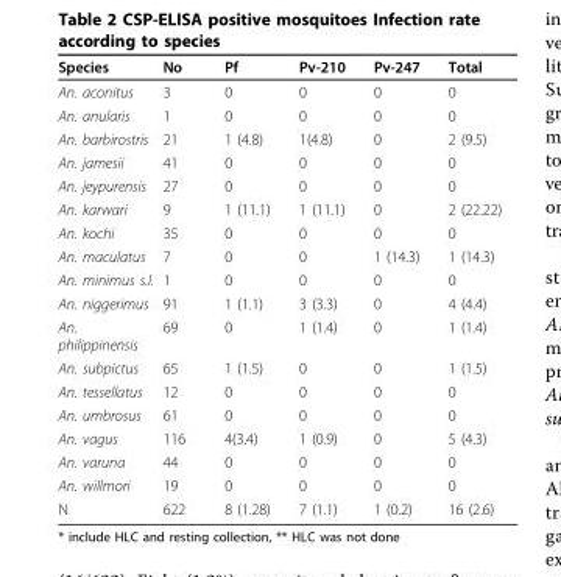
<table><thead><tr><td>Species</td><td>No</td><td>Pf</td><td>Pv-210</td><td>Pv-247</td><td>Total</td></tr></thead><tbody><tr><td>An. aconitus</td><td>3</td><td>0</td><td>0</td><td>0</td><td>0</td></tr><tr><td>An. anularis</td><td>1</td><td>0</td><td>0</td><td>0</td><td>0</td></tr><tr><td>An. barbirostris</td><td>21</td><td>1 (4.8)</td><td>1(4.8)</td><td>0</td><td>2 (9.5)</td></tr><tr><td>An. jamesii</td><td>41</td><td>0</td><td>0</td><td>0</td><td>0</td></tr><tr><td>An. jeypurensis</td><td>27</td><td>0</td><td>0</td><td>0</td><td>0</td></tr><tr><td>An. karwari</td><td>9</td><td>1 (11.1)</td><td>1 (11.1)</td><td>0</td><td>2 (22.22)</td></tr><tr><td>An. kochi</td><td>35</td><td>0</td><td>0</td><td>0</td><td>0</td></tr><tr><td>An. maculatus</td><td>7</td><td>0</td><td>0</td><td>1 (14.3)</td><td>1 (14.3)</td></tr><tr><td>An. minimus s.l.</td><td>1</td><td>0</td><td>0</td><td>0</td><td>0</td></tr><tr><td>An. niggerimus</td><td>91</td><td>1 (1.1)</td><td>3 (3.3)</td><td>0</td><td>4 (4.4)</td></tr><tr><td>An. philippinensis</td><td>69</td><td>0</td><td>1 (1.4)</td><td>0</td><td>1 (1.4)</td></tr><tr><td>An. subpictus</td><td>65</td><td>1 (1.5)</td><td>0</td><td>0</td><td>1 (1.5)</td></tr><tr><td>An. tessellatus</td><td>12</td><td>0</td><td>0</td><td>0</td><td>0</td></tr><tr><td>An. umbrosus</td><td>61</td><td>0</td><td>0</td><td>0</td><td>0</td></tr><tr><td>An. vagus</td><td>116</td><td>4(3.4)</td><td>1 (0.9)</td><td>0</td><td>5 (4.3)</td></tr><tr><td>An. varuna</td><td>44</td><td>0</td><td>0</td><td>0</td><td>0</td></tr><tr><td>An. willmori</td><td>19</td><td>0</td><td>0</td><td>0</td><td>0</td></tr><tr><td>N</td><td>622</td><td>8 (1.28)</td><td>7 (1.1)</td><td>1 (0.2)</td><td>16 (2.6)</td></tr></tbody></table>